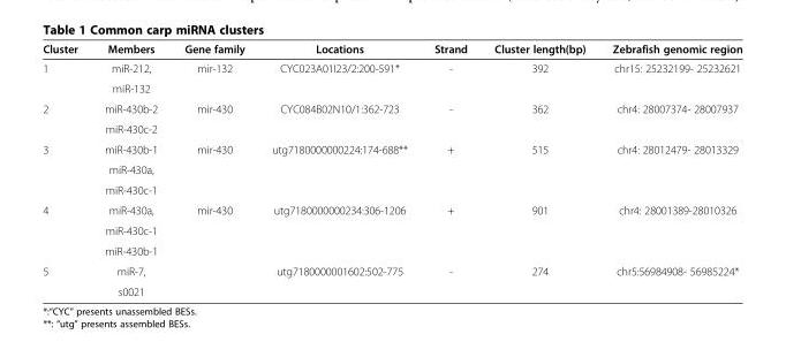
<table><thead><tr><td>Cluster</td><td>Members</td><td>Gene family</td><td>Locations</td><td>Strand</td><td>Cluster length(bp)</td><td>Zebrafish genomic region</td></tr></thead><tbody><tr><td rowspan="2">1</td><td>miR-212,</td><td>mir-132</td><td>CYC023A01I23/2:200-591*</td><td>-</td><td>392</td><td>chr15: 25232199- 25232621</td></tr><tr><td>miR-132</td><td></td><td></td><td></td><td></td><td></td></tr><tr><td rowspan="2">2</td><td>miR-430b-2</td><td>mir-430</td><td>CYC084B02N10/1:362-723</td><td>-</td><td>362</td><td>chr4: 28007374- 28007937</td></tr><tr><td>miR-430c-2</td><td></td><td></td><td></td><td></td><td></td></tr><tr><td rowspan="3">3</td><td>miR-430b-1</td><td>mir-430</td><td>utg7180000000224:174-688**</td><td>+</td><td>515</td><td>chr4: 28012479- 28013329</td></tr><tr><td>miR-430a,</td><td></td><td></td><td></td><td></td><td></td></tr><tr><td>miR-430c-1</td><td></td><td></td><td></td><td></td><td></td></tr><tr><td rowspan="3">4</td><td>miR-430a,</td><td>mir-430</td><td>utg7180000000234:306-1206</td><td>+</td><td>901</td><td>chr4: 28001389-28010326</td></tr><tr><td>miR-430c-1</td><td></td><td></td><td></td><td></td><td></td></tr><tr><td>miR-430b-1</td><td></td><td></td><td></td><td></td><td></td></tr><tr><td rowspan="2">5</td><td>miR-7,</td><td></td><td>utg7180000001602:502-775</td><td>-</td><td>274</td><td>chr5:56984908- 56985224*</td></tr><tr><td>s0021</td><td></td><td></td><td></td><td></td><td></td></tr></tbody></table>